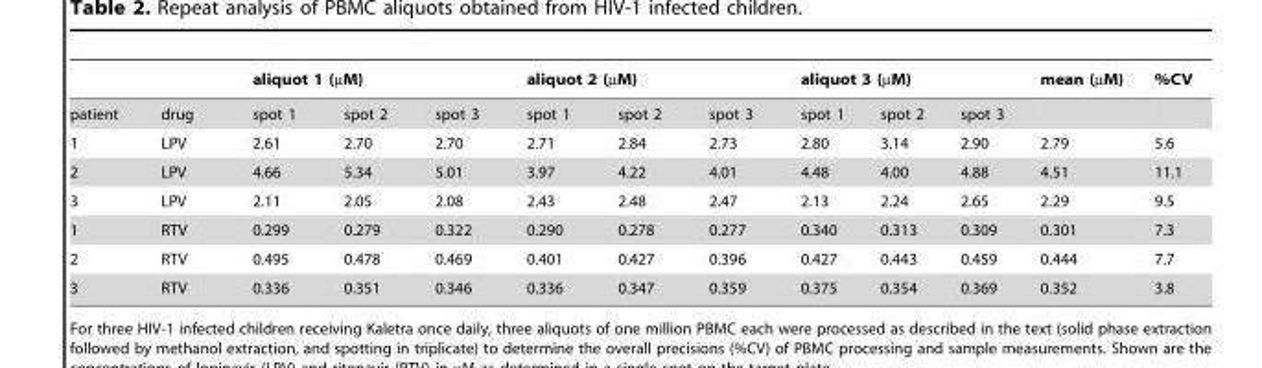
<table><thead><tr><td rowspan="2">patient</td><td rowspan="2">drug</td><td colspan="3">aliquot 1 (µM)</td><td colspan="3">aliquot 2 (µM)</td><td colspan="3">aliquot 3 (µM)</td><td rowspan="2">mean (µM)</td><td rowspan="2">%CV</td></tr><tr><td>spot 1</td><td>spot 2</td><td>spot 3</td><td>spot 1</td><td>spot 2</td><td>spot 3</td><td>spot 1</td><td>spot 2</td><td>spot 3</td></tr></thead><tbody><tr><td>1</td><td>LPV</td><td>2.61</td><td>2.70</td><td>2.70</td><td>2.71</td><td>2.84</td><td>2.73</td><td>2.80</td><td>3.14</td><td>2.90</td><td>2.79</td><td>5.6</td></tr><tr><td>2</td><td>LPV</td><td>4.66</td><td>5.34</td><td>5.01</td><td>3.97</td><td>4.22</td><td>4.01</td><td>4.48</td><td>4.00</td><td>4.88</td><td>4.51</td><td>11.1</td></tr><tr><td>3</td><td>LPV</td><td>2.11</td><td>2.05</td><td>2.08</td><td>2.43</td><td>2.48</td><td>2.47</td><td>2.13</td><td>2.24</td><td>2.65</td><td>2.29</td><td>9.5</td></tr><tr><td>1</td><td>RTV</td><td>0.299</td><td>0.279</td><td>0.322</td><td>0.290</td><td>0.278</td><td>0.277</td><td>0.340</td><td>0.313</td><td>0.309</td><td>0.301</td><td>7.3</td></tr><tr><td>2</td><td>RTV</td><td>0.495</td><td>0.478</td><td>0.469</td><td>0.401</td><td>0.427</td><td>0.396</td><td>0.427</td><td>0.443</td><td>0.459</td><td>0.444</td><td>7.7</td></tr><tr><td>3</td><td>RTV</td><td>0.336</td><td>0.351</td><td>0.346</td><td>0.336</td><td>0.347</td><td>0.359</td><td>0.375</td><td>0.354</td><td>0.369</td><td>0.352</td><td>3.8</td></tr></tbody></table>